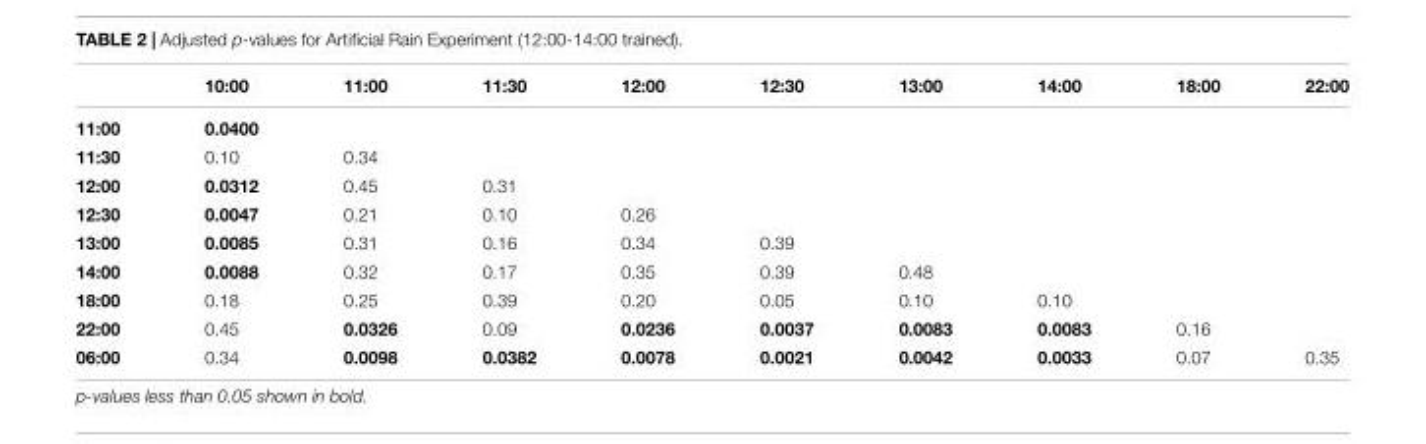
<table><thead><tr><td></td><td>10:00</td><td>11:00</td><td>11:30</td><td>12:00</td><td>12:30</td><td>13:00</td><td>14:00</td><td>18:00</td><td>22:00</td></tr></thead><tbody><tr><td>11:00</td><td>0.0400</td><td></td><td></td><td></td><td></td><td></td><td></td><td></td><td></td></tr><tr><td>11:30</td><td>0.10</td><td>0.34</td><td></td><td></td><td></td><td></td><td></td><td></td><td></td></tr><tr><td>12:00</td><td>0.0312</td><td>0.45</td><td>0.31</td><td></td><td></td><td></td><td></td><td></td><td></td></tr><tr><td>12:30</td><td>0.0047</td><td>0.21</td><td>0.10</td><td>0.26</td><td></td><td></td><td></td><td></td><td></td></tr><tr><td>13:00</td><td>0.0085</td><td>0.31</td><td>0.16</td><td>0.34</td><td>0.39</td><td></td><td></td><td></td><td></td></tr><tr><td>14:00</td><td>0.0088</td><td>0.32</td><td>0.17</td><td>0.35</td><td>0.39</td><td>0.48</td><td></td><td></td><td></td></tr><tr><td>18:00</td><td>0.18</td><td>0.25</td><td>0.39</td><td>0.20</td><td>0.05</td><td>0.10</td><td>0.10</td><td></td><td></td></tr><tr><td>22:00</td><td>0.45</td><td>0.0326</td><td>0.09</td><td>0.0236</td><td>0.0037</td><td>0.0083</td><td>0.0083</td><td>0.16</td><td></td></tr><tr><td>06:00</td><td>0.34</td><td>0.0098</td><td>0.0382</td><td>0.0078</td><td>0.0021</td><td>0.0042</td><td>0.0033</td><td>0.07</td><td>0.35</td></tr></tbody></table>